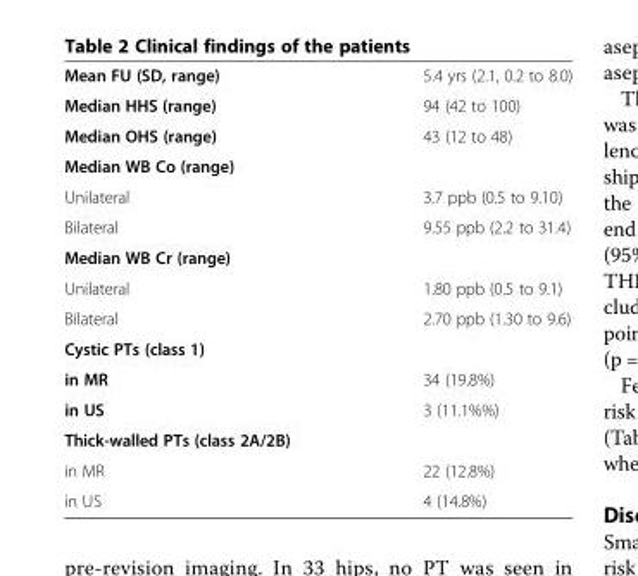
<table><tbody><tr><td>Mean FU (SD, range)</td><td>5.4 yrs (2.1, 0.2 to 8.0)</td></tr><tr><td>Median HHS (range)</td><td>94 (42 to 100)</td></tr><tr><td>Median OHS (range)</td><td>43 (12 to 48)</td></tr><tr><td colspan="2">Median WB Co (range)</td></tr><tr><td>Unilateral</td><td>3.7 ppb (0.5 to 9.10)</td></tr><tr><td>Bilateral</td><td>9.55 ppb (2.2 to 31.4)</td></tr><tr><td colspan="2">Median WB Cr (range)</td></tr><tr><td>Unilateral</td><td>1.80 ppb (0.5 to 9.1)</td></tr><tr><td>Bilateral</td><td>2.70 ppb (1.30 to 9.6)</td></tr><tr><td colspan="2">Cystic PTs (class 1)</td></tr><tr><td>in MR</td><td>34 (19.8%)</td></tr><tr><td>in US</td><td>3 (11.1%%)</td></tr><tr><td colspan="2">Thick-walled PTs (class 2A/2B)</td></tr><tr><td>in MR</td><td>22 (12.8%)</td></tr><tr><td>in US</td><td>4 (14.8%)</td></tr></tbody></table>